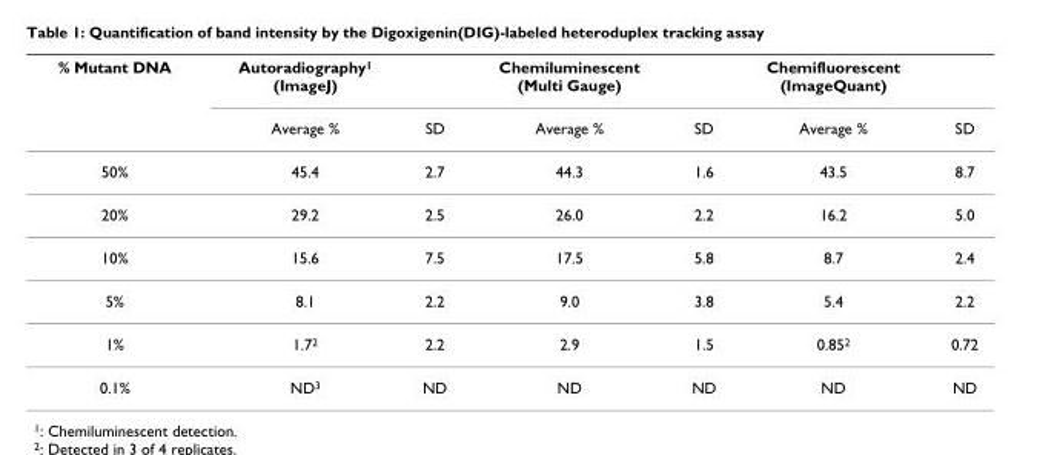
<table><thead><tr><td rowspan="2">% Mutant DNA</td><td rowspan="2">Autoradiography<sup>1</sup> (ImageJ) Average %</td><td rowspan="2">SD</td><td rowspan="2">Chemiluminescent (Multi Gauge) Average %</td><td rowspan="2">SD</td><td rowspan="2">Chemifluorescent (ImageQuant) Average %</td><td rowspan="2">SD</td></tr><tr></tr></thead><tbody><tr><td>50%</td><td>45.4</td><td>2.7</td><td>44.3</td><td>1.6</td><td>43.5</td><td>8.7</td></tr><tr><td>20%</td><td>29.2</td><td>2.5</td><td>26.0</td><td>2.2</td><td>16.2</td><td>5.0</td></tr><tr><td>10%</td><td>15.6</td><td>7.5</td><td>17.5</td><td>5.8</td><td>8.7</td><td>2.4</td></tr><tr><td>5%</td><td>8.1</td><td>2.2</td><td>9.0</td><td>3.8</td><td>5.4</td><td>2.2</td></tr><tr><td>1%</td><td>1.7<sup>2</sup></td><td>2.2</td><td>2.9</td><td>1.5</td><td>0.85<sup>2</sup></td><td>0.72</td></tr><tr><td>0.1%</td><td>ND<sup>3</sup></td><td>ND</td><td>ND</td><td>ND</td><td>ND</td><td>ND</td></tr></tbody></table>